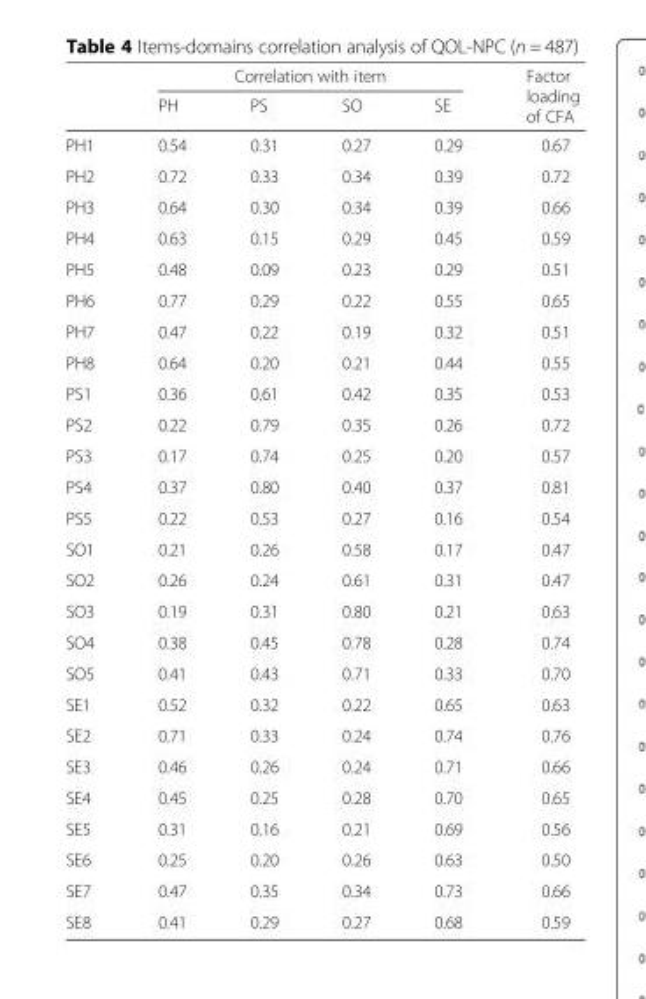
<table><thead><tr><td rowspan="2"></td><td colspan="4">Correlation with item</td><td rowspan="2">Factor loading of CFA</td></tr><tr><td>PH</td><td>PS</td><td>SO</td><td>SE</td></tr></thead><tbody><tr><td>PH1</td><td>0.54</td><td>0.31</td><td>0.27</td><td>0.29</td><td>0.67</td></tr><tr><td>PH2</td><td>0.72</td><td>0.33</td><td>0.34</td><td>0.39</td><td>0.72</td></tr><tr><td>PH3</td><td>0.64</td><td>0.30</td><td>0.34</td><td>0.39</td><td>0.66</td></tr><tr><td>PH4</td><td>0.63</td><td>0.15</td><td>0.29</td><td>0.45</td><td>0.59</td></tr><tr><td>PH5</td><td>0.48</td><td>0.09</td><td>0.23</td><td>0.29</td><td>0.51</td></tr><tr><td>PH6</td><td>0.77</td><td>0.29</td><td>0.22</td><td>0.55</td><td>0.65</td></tr><tr><td>PH7</td><td>0.47</td><td>0.22</td><td>0.19</td><td>0.32</td><td>0.51</td></tr><tr><td>PH8</td><td>0.64</td><td>0.20</td><td>0.21</td><td>0.44</td><td>0.55</td></tr><tr><td>PS1</td><td>0.36</td><td>0.61</td><td>0.42</td><td>0.35</td><td>0.53</td></tr><tr><td>PS2</td><td>0.22</td><td>0.79</td><td>0.35</td><td>0.26</td><td>0.72</td></tr><tr><td>PS3</td><td>0.17</td><td>0.74</td><td>0.25</td><td>0.20</td><td>0.57</td></tr><tr><td>PS4</td><td>0.37</td><td>0.80</td><td>0.40</td><td>0.37</td><td>0.81</td></tr><tr><td>PS5</td><td>0.22</td><td>0.53</td><td>0.27</td><td>0.16</td><td>0.54</td></tr><tr><td>SO1</td><td>0.21</td><td>0.26</td><td>0.58</td><td>0.17</td><td>0.47</td></tr><tr><td>SO2</td><td>0.26</td><td>0.24</td><td>0.61</td><td>0.31</td><td>0.47</td></tr><tr><td>SO3</td><td>0.19</td><td>0.31</td><td>0.80</td><td>0.21</td><td>0.63</td></tr><tr><td>SO4</td><td>0.38</td><td>0.45</td><td>0.78</td><td>0.28</td><td>0.74</td></tr><tr><td>SO5</td><td>0.41</td><td>0.43</td><td>0.71</td><td>0.33</td><td>0.70</td></tr><tr><td>SE1</td><td>0.52</td><td>0.32</td><td>0.22</td><td>0.65</td><td>0.63</td></tr><tr><td>SE2</td><td>0.71</td><td>0.33</td><td>0.24</td><td>0.74</td><td>0.76</td></tr><tr><td>SE3</td><td>0.46</td><td>0.26</td><td>0.24</td><td>0.71</td><td>0.66</td></tr><tr><td>SE4</td><td>0.45</td><td>0.25</td><td>0.28</td><td>0.70</td><td>0.65</td></tr><tr><td>SE5</td><td>0.31</td><td>0.16</td><td>0.21</td><td>0.69</td><td>0.56</td></tr><tr><td>SE6</td><td>0.25</td><td>0.20</td><td>0.26</td><td>0.63</td><td>0.50</td></tr><tr><td>SE7</td><td>0.47</td><td>0.35</td><td>0.34</td><td>0.73</td><td>0.66</td></tr><tr><td>SE8</td><td>0.41</td><td>0.29</td><td>0.27</td><td>0.68</td><td>0.59</td></tr></tbody></table>